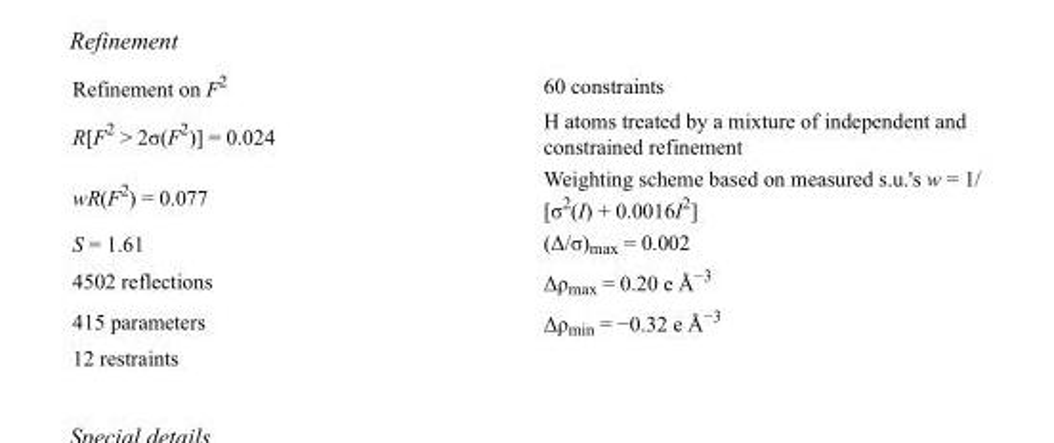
<table><tbody><tr><td>Refinement on F<sup>2</sup></td><td>60 constraints</td></tr><tr><td>R[F<sup>2</sup> &gt; 2σ(F<sup>2</sup>)] = 0.024</td><td>H atoms treated by a mixture of independent and constrained refinement</td></tr><tr><td>wR(F<sup>2</sup>) = 0.077</td><td>Weighting scheme based on measured s.u.&#x27;s w = 1/ [σ<sup>2</sup>(I) + 0.0016I<sup>2</sup>]</td></tr><tr><td>S = 1.61</td><td>(Δ/σ)<sub>max</sub> = 0.002</td></tr><tr><td>4502 reflections</td><td>Δρ<sub>max</sub> = 0.20 e Å<sup>−3</sup></td></tr><tr><td>415 parameters</td><td>Δρ<sub>min</sub> = −0.32 e Å<sup>−3</sup></td></tr><tr><td>12 restraints</td><td></td></tr></tbody></table>